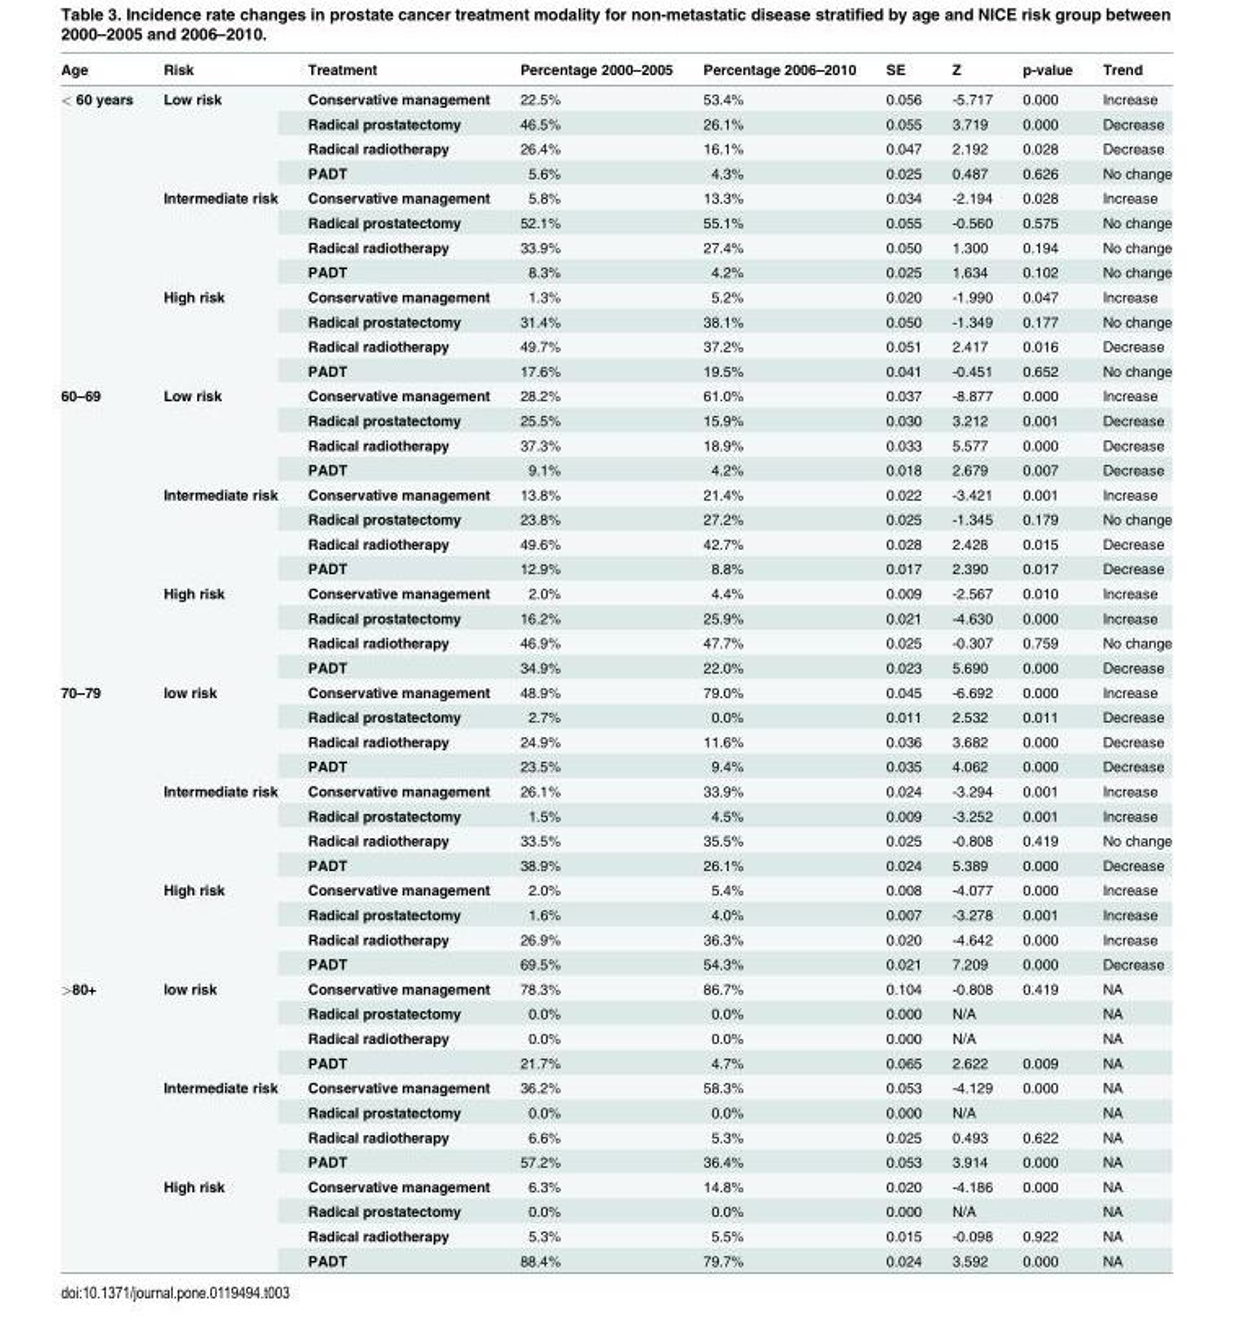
<table><thead><tr><td>Age</td><td>Risk</td><td>Treatment</td><td>Percentage 2000–2005</td><td>Percentage 2006–2010</td><td>SE</td><td>Z</td><td>p-value</td><td>Trend</td></tr></thead><tbody><tr><td rowspan="12">&lt; 60 years</td><td rowspan="4">Low risk</td><td>Conservative management</td><td>22.5%</td><td>53.4%</td><td>0.056</td><td>-5.717</td><td>0.000</td><td>Increase</td></tr><tr><td>Radical prostatectomy</td><td>46.5%</td><td>26.1%</td><td>0.055</td><td>3.719</td><td>0.000</td><td>Decrease</td></tr><tr><td>Radical radiotherapy</td><td>26.4%</td><td>16.1%</td><td>0.047</td><td>2.192</td><td>0.028</td><td>Decrease</td></tr><tr><td>PADT</td><td>5.6%</td><td>4.3%</td><td>0.025</td><td>0.487</td><td>0.626</td><td>No change</td></tr><tr><td rowspan="4">Intermediate risk</td><td>Conservative management</td><td>5.8%</td><td>13.3%</td><td>0.034</td><td>-2.194</td><td>0.028</td><td>Increase</td></tr><tr><td>Radical prostatectomy</td><td>52.1%</td><td>55.1%</td><td>0.055</td><td>-0.560</td><td>0.575</td><td>No change</td></tr><tr><td>Radical radiotherapy</td><td>33.9%</td><td>27.4%</td><td>0.050</td><td>1.300</td><td>0.194</td><td>No change</td></tr><tr><td>PADT</td><td>8.3%</td><td>4.2%</td><td>0.025</td><td>1.634</td><td>0.102</td><td>No change</td></tr><tr><td rowspan="4">High risk</td><td>Conservative management</td><td>1.3%</td><td>5.2%</td><td>0.020</td><td>-1.990</td><td>0.047</td><td>Increase</td></tr><tr><td>Radical prostatectomy</td><td>31.4%</td><td>38.1%</td><td>0.050</td><td>-1.349</td><td>0.177</td><td>No change</td></tr><tr><td>Radical radiotherapy</td><td>49.7%</td><td>37.2%</td><td>0.051</td><td>2.417</td><td>0.016</td><td>Decrease</td></tr><tr><td>PADT</td><td>17.6%</td><td>19.5%</td><td>0.041</td><td>-0.451</td><td>0.652</td><td>No change</td></tr><tr><td rowspan="12">60–69</td><td rowspan="4">Low risk</td><td>Conservative management</td><td>28.2%</td><td>61.0%</td><td>0.037</td><td>-8.877</td><td>0.000</td><td>Increase</td></tr><tr><td>Radical prostatectomy</td><td>25.5%</td><td>15.9%</td><td>0.030</td><td>3.212</td><td>0.001</td><td>Decrease</td></tr><tr><td>Radical radiotherapy</td><td>37.3%</td><td>18.9%</td><td>0.033</td><td>5.577</td><td>0.000</td><td>Decrease</td></tr><tr><td>PADT</td><td>9.1%</td><td>4.2%</td><td>0.018</td><td>2.679</td><td>0.007</td><td>Decrease</td></tr><tr><td rowspan="4">Intermediate risk</td><td>Conservative management</td><td>13.8%</td><td>21.4%</td><td>0.022</td><td>-3.421</td><td>0.001</td><td>Increase</td></tr><tr><td>Radical prostatectomy</td><td>23.8%</td><td>27.2%</td><td>0.025</td><td>-1.345</td><td>0.179</td><td>No change</td></tr><tr><td>Radical radiotherapy</td><td>49.6%</td><td>42.7%</td><td>0.028</td><td>2.428</td><td>0.015</td><td>Decrease</td></tr><tr><td>PADT</td><td>12.9%</td><td>8.8%</td><td>0.017</td><td>2.390</td><td>0.017</td><td>Decrease</td></tr><tr><td rowspan="4">High risk</td><td>Conservative management</td><td>2.0%</td><td>4.4%</td><td>0.009</td><td>-2.567</td><td>0.010</td><td>Increase</td></tr><tr><td>Radical prostatectomy</td><td>16.2%</td><td>25.9%</td><td>0.021</td><td>-4.630</td><td>0.000</td><td>Increase</td></tr><tr><td>Radical radiotherapy</td><td>46.9%</td><td>47.7%</td><td>0.025</td><td>-0.307</td><td>0.759</td><td>No change</td></tr><tr><td>PADT</td><td>34.9%</td><td>22.0%</td><td>0.023</td><td>5.690</td><td>0.000</td><td>Decrease</td></tr><tr><td rowspan="12">70–79</td><td rowspan="4">low risk</td><td>Conservative management</td><td>48.9%</td><td>79.0%</td><td>0.045</td><td>-6.692</td><td>0.000</td><td>Increase</td></tr><tr><td>Radical prostatectomy</td><td>2.7%</td><td>0.0%</td><td>0.011</td><td>2.532</td><td>0.011</td><td>Decrease</td></tr><tr><td>Radical radiotherapy</td><td>24.9%</td><td>11.6%</td><td>0.036</td><td>3.682</td><td>0.000</td><td>Decrease</td></tr><tr><td>PADT</td><td>23.5%</td><td>9.4%</td><td>0.035</td><td>4.062</td><td>0.000</td><td>Decrease</td></tr><tr><td rowspan="4">Intermediate risk</td><td>Conservative management</td><td>26.1%</td><td>33.9%</td><td>0.024</td><td>-3.294</td><td>0.001</td><td>Increase</td></tr><tr><td>Radical prostatectomy</td><td>1.5%</td><td>4.5%</td><td>0.009</td><td>-3.252</td><td>0.001</td><td>Increase</td></tr><tr><td>Radical radiotherapy</td><td>33.5%</td><td>35.5%</td><td>0.025</td><td>-0.808</td><td>0.419</td><td>No change</td></tr><tr><td>PADT</td><td>38.9%</td><td>26.1%</td><td>0.024</td><td>5.389</td><td>0.000</td><td>Decrease</td></tr><tr><td rowspan="4">High risk</td><td>Conservative management</td><td>2.0%</td><td>5.4%</td><td>0.008</td><td>-4.077</td><td>0.000</td><td>Increase</td></tr><tr><td>Radical prostatectomy</td><td>1.6%</td><td>4.0%</td><td>0.007</td><td>-3.278</td><td>0.001</td><td>Increase</td></tr><tr><td>Radical radiotherapy</td><td>26.9%</td><td>36.3%</td><td>0.020</td><td>-4.642</td><td>0.000</td><td>Increase</td></tr><tr><td>PADT</td><td>69.5%</td><td>54.3%</td><td>0.021</td><td>7.209</td><td>0.000</td><td>Decrease</td></tr><tr><td rowspan="12">&gt;80+</td><td rowspan="4">low risk</td><td>Conservative management</td><td>78.3%</td><td>86.7%</td><td>0.104</td><td>-0.808</td><td>0.419</td><td>NA</td></tr><tr><td>Radical prostatectomy</td><td>0.0%</td><td>0.0%</td><td>0.000</td><td>N/A</td><td></td><td>NA</td></tr><tr><td>Radical radiotherapy</td><td>0.0%</td><td>0.0%</td><td>0.000</td><td>N/A</td><td></td><td>NA</td></tr><tr><td>PADT</td><td>21.7%</td><td>4.7%</td><td>0.065</td><td>2.622</td><td>0.009</td><td>NA</td></tr><tr><td rowspan="4">Intermediate risk</td><td>Conservative management</td><td>36.2%</td><td>58.3%</td><td>0.053</td><td>-4.129</td><td>0.000</td><td>NA</td></tr><tr><td>Radical prostatectomy</td><td>0.0%</td><td>0.0%</td><td>0.000</td><td>N/A</td><td></td><td>NA</td></tr><tr><td>Radical radiotherapy</td><td>6.6%</td><td>5.3%</td><td>0.025</td><td>0.493</td><td>0.622</td><td>NA</td></tr><tr><td>PADT</td><td>57.2%</td><td>36.4%</td><td>0.053</td><td>3.914</td><td>0.000</td><td>NA</td></tr><tr><td rowspan="4">High risk</td><td>Conservative management</td><td>6.3%</td><td>14.8%</td><td>0.020</td><td>-4.186</td><td>0.000</td><td>NA</td></tr><tr><td>Radical prostatectomy</td><td>0.0%</td><td>0.0%</td><td>0.000</td><td>N/A</td><td></td><td>NA</td></tr><tr><td>Radical radiotherapy</td><td>5.3%</td><td>5.5%</td><td>0.015</td><td>-0.098</td><td>0.922</td><td>NA</td></tr><tr><td>PADT</td><td>88.4%</td><td>79.7%</td><td>0.024</td><td>3.592</td><td>0.000</td><td>NA</td></tr></tbody></table>